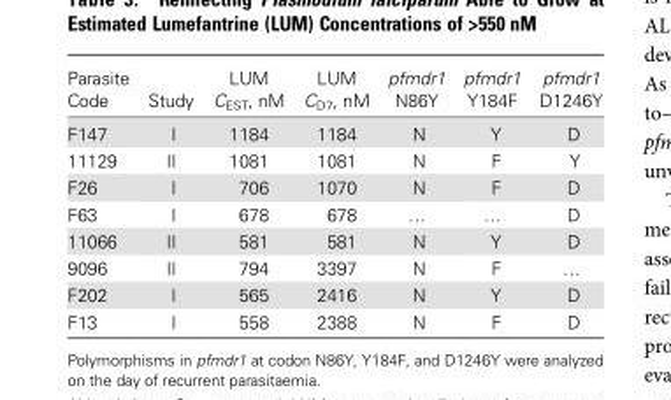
<table><thead><tr><td>Parasite Code</td><td>Study</td><td>LUM C<sub>EST</sub>, nM</td><td>LUM C<sub>D7</sub>, nM</td><td>pfmdr1 N86Y</td><td>pfmdr1 Y184F</td><td>pfmdr1 D1246Y</td></tr></thead><tbody><tr><td>F147</td><td>I</td><td>1184</td><td>1184</td><td>N</td><td>Y</td><td>D</td></tr><tr><td>11129</td><td>II</td><td>1081</td><td>1081</td><td>N</td><td>F</td><td>Y</td></tr><tr><td>F26</td><td>I</td><td>706</td><td>1070</td><td>N</td><td>F</td><td>D</td></tr><tr><td>F63</td><td>I</td><td>678</td><td>678</td><td>…</td><td>…</td><td>D</td></tr><tr><td>11066</td><td>II</td><td>581</td><td>581</td><td>N</td><td>Y</td><td>D</td></tr><tr><td>9096</td><td>II</td><td>794</td><td>3397</td><td>N</td><td>F</td><td>…</td></tr><tr><td>F202</td><td>I</td><td>565</td><td>2416</td><td>N</td><td>Y</td><td>D</td></tr><tr><td>F13</td><td>I</td><td>558</td><td>2388</td><td>N</td><td>F</td><td>D</td></tr></tbody></table>